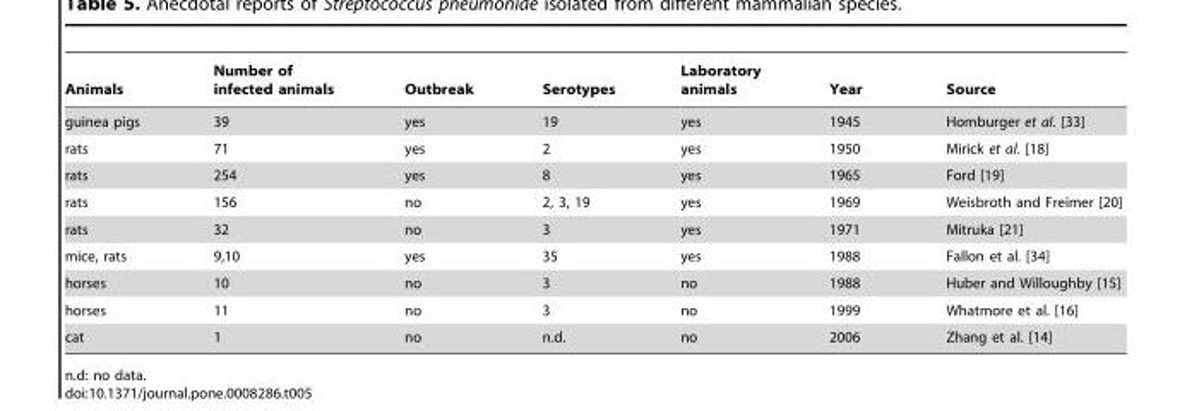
<table><thead><tr><td>Animals</td><td>Number of infected animals</td><td>Outbreak</td><td>Serotypes</td><td>Laboratory animals</td><td>Year</td><td>Source</td></tr></thead><tbody><tr><td>guinea pigs</td><td>39</td><td>yes</td><td>19</td><td>yes</td><td>1945</td><td>Homburger et al. [33]</td></tr><tr><td>rats</td><td>71</td><td>yes</td><td>2</td><td>yes</td><td>1950</td><td>Mirick et al. [18]</td></tr><tr><td>rats</td><td>254</td><td>yes</td><td>8</td><td>yes</td><td>1965</td><td>Ford [19]</td></tr><tr><td>rats</td><td>156</td><td>no</td><td>2, 3, 19</td><td>yes</td><td>1969</td><td>Weisbroth and Freimer [20]</td></tr><tr><td>rats</td><td>32</td><td>no</td><td>3</td><td>yes</td><td>1971</td><td>Mitruka [21]</td></tr><tr><td>mice, rats</td><td>9,10</td><td>yes</td><td>35</td><td>yes</td><td>1988</td><td>Fallon et al. [34]</td></tr><tr><td>horses</td><td>10</td><td>no</td><td>3</td><td>no</td><td>1988</td><td>Huber and Willoughby [15]</td></tr><tr><td>horses</td><td>11</td><td>no</td><td>3</td><td>no</td><td>1999</td><td>Whatmore et al. [16]</td></tr><tr><td>cat</td><td>1</td><td>no</td><td>n.d.</td><td>no</td><td>2006</td><td>Zhang et al. [14]</td></tr></tbody></table>